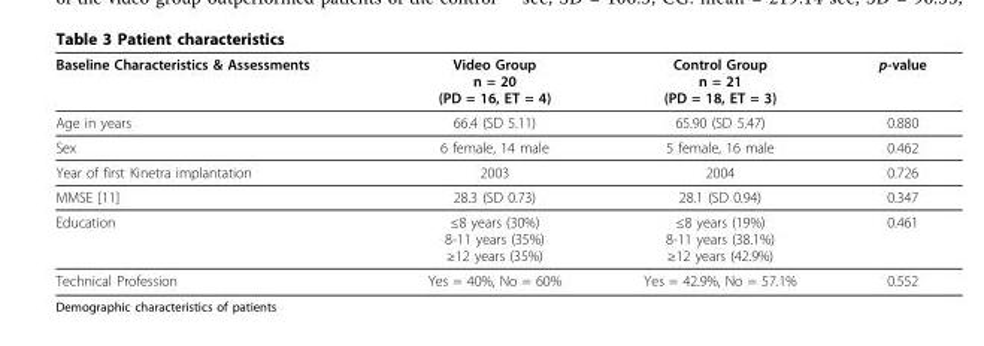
<table><thead><tr><td>Baseline Characteristics &amp; Assessments</td><td>Video Group n = 20 (PD = 16, ET = 4)</td><td>Control Group n = 21 (PD = 18, ET = 3)</td><td>p-value</td></tr></thead><tbody><tr><td>Age in years</td><td>66.4 (SD 5.11)</td><td>65.90 (SD 5.47)</td><td>0.880</td></tr><tr><td>Sex</td><td>6 female, 14 male</td><td>5 female, 16 male</td><td>0.462</td></tr><tr><td>Year of first Kinetra implantation</td><td>2003</td><td>2004</td><td>0.726</td></tr><tr><td>MMSE [11]</td><td>28.3 (SD 0.73)</td><td>28.1 (SD 0.94)</td><td>0.347</td></tr><tr><td>Education</td><td>≤8 years (30%) 8-11 years (35%) ≥12 years (35%)</td><td>≤8 years (19%) 8-11 years (38.1%) ≥12 years (42.9%)</td><td>0.461</td></tr><tr><td>Technical Profession</td><td>Yes = 40%, No = 60%</td><td>Yes = 42.9%, No = 57.1%</td><td>0.552</td></tr></tbody></table>